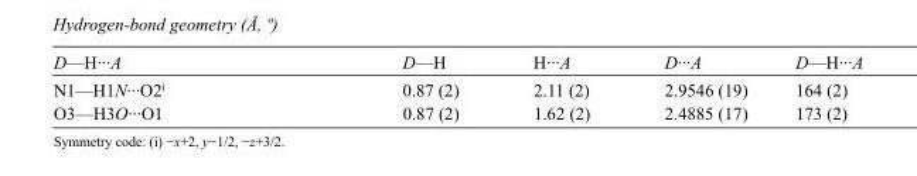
<table><tbody><tr><td>D—H···A</td><td>D—H</td><td>H···A</td><td>D···A</td><td>D—H···A</td></tr><tr><td>N1—H1N···O2<sup>i</sup></td><td>0.87 (2)</td><td>2.11 (2)</td><td>2.9546 (19)</td><td>164 (2)</td></tr><tr><td>O3—H3O···O1</td><td>0.87 (2)</td><td>1.62 (2)</td><td>2.4885 (17)</td><td>173 (2)</td></tr></tbody></table>